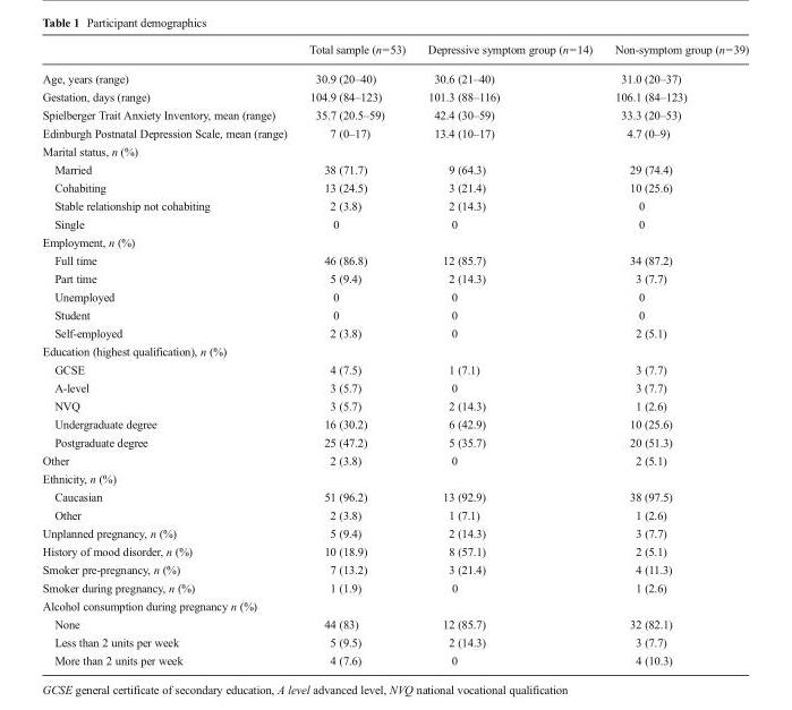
<table><thead><tr><td></td><td>Total sample (n=53)</td><td>Depressive symptom group (n=14)</td><td>Non-symptom group (n=39)</td></tr></thead><tbody><tr><td>Age, years (range)</td><td>30.9 (20–40)</td><td>30.6 (21–40)</td><td>31.0 (20–37)</td></tr><tr><td>Gestation, days (range)</td><td>104.9 (84–123)</td><td>101.3 (88–116)</td><td>106.1 (84–123)</td></tr><tr><td>Spielberger Trait Anxiety Inventory, mean (range)</td><td>35.7 (20.5–59)</td><td>42.4 (30–59)</td><td>33.3 (20–53)</td></tr><tr><td>Edinburgh Postnatal Depression Scale, mean (range)</td><td>7 (0–17)</td><td>13.4 (10–17)</td><td>4.7 (0–9)</td></tr><tr><td colspan="4">Marital status, n (%)</td></tr><tr><td>Married</td><td>38 (71.7)</td><td>9 (64.3)</td><td>29 (74.4)</td></tr><tr><td>Cohabiting</td><td>13 (24.5)</td><td>3 (21.4)</td><td>10 (25.6)</td></tr><tr><td>Stable relationship not cohabiting</td><td>2 (3.8)</td><td>2 (14.3)</td><td>0</td></tr><tr><td>Single</td><td>0</td><td>0</td><td>0</td></tr><tr><td colspan="4">Employment, n (%)</td></tr><tr><td>Full time</td><td>46 (86.8)</td><td>12 (85.7)</td><td>34 (87.2)</td></tr><tr><td>Part time</td><td>5 (9.4)</td><td>2 (14.3)</td><td>3 (7.7)</td></tr><tr><td>Unemployed</td><td>0</td><td>0</td><td>0</td></tr><tr><td>Student</td><td>0</td><td>0</td><td>0</td></tr><tr><td>Self-employed</td><td>2 (3.8)</td><td>0</td><td>2 (5.1)</td></tr><tr><td colspan="4">Education (highest qualification), n (%)</td></tr><tr><td>GCSE</td><td>4 (7.5)</td><td>1 (7.1)</td><td>3 (7.7)</td></tr><tr><td>A-level</td><td>3 (5.7)</td><td>0</td><td>3 (7.7)</td></tr><tr><td>NVQ</td><td>3 (5.7)</td><td>2 (14.3)</td><td>1 (2.6)</td></tr><tr><td>Undergraduate degree</td><td>16 (30.2)</td><td>6 (42.9)</td><td>10 (25.6)</td></tr><tr><td>Postgraduate degree</td><td>25 (47.2)</td><td>5 (35.7)</td><td>20 (51.3)</td></tr><tr><td>Other</td><td>2 (3.8)</td><td>0</td><td>2 (5.1)</td></tr><tr><td colspan="4">Ethnicity, n (%)</td></tr><tr><td>Caucasian</td><td>51 (96.2)</td><td>13 (92.9)</td><td>38 (97.5)</td></tr><tr><td>Other</td><td>2 (3.8)</td><td>1 (7.1)</td><td>1 (2.6)</td></tr><tr><td>Unplanned pregnancy, n (%)</td><td>5 (9.4)</td><td>2 (14.3)</td><td>3 (7.7)</td></tr><tr><td>History of mood disorder, n (%)</td><td>10 (18.9)</td><td>8 (57.1)</td><td>2 (5.1)</td></tr><tr><td>Smoker pre-pregnancy, n (%)</td><td>7 (13.2)</td><td>3 (21.4)</td><td>4 (11.3)</td></tr><tr><td>Smoker during pregnancy, n (%)</td><td>1 (1.9)</td><td>0</td><td>1 (2.6)</td></tr><tr><td colspan="4">Alcohol consumption during pregnancy n (%)</td></tr><tr><td>None</td><td>44 (83)</td><td>12 (85.7)</td><td>32 (82.1)</td></tr><tr><td>Less than 2 units per week</td><td>5 (9.5)</td><td>2 (14.3)</td><td>3 (7.7)</td></tr><tr><td>More than 2 units per week</td><td>4 (7.6)</td><td>0</td><td>4 (10.3)</td></tr></tbody></table>